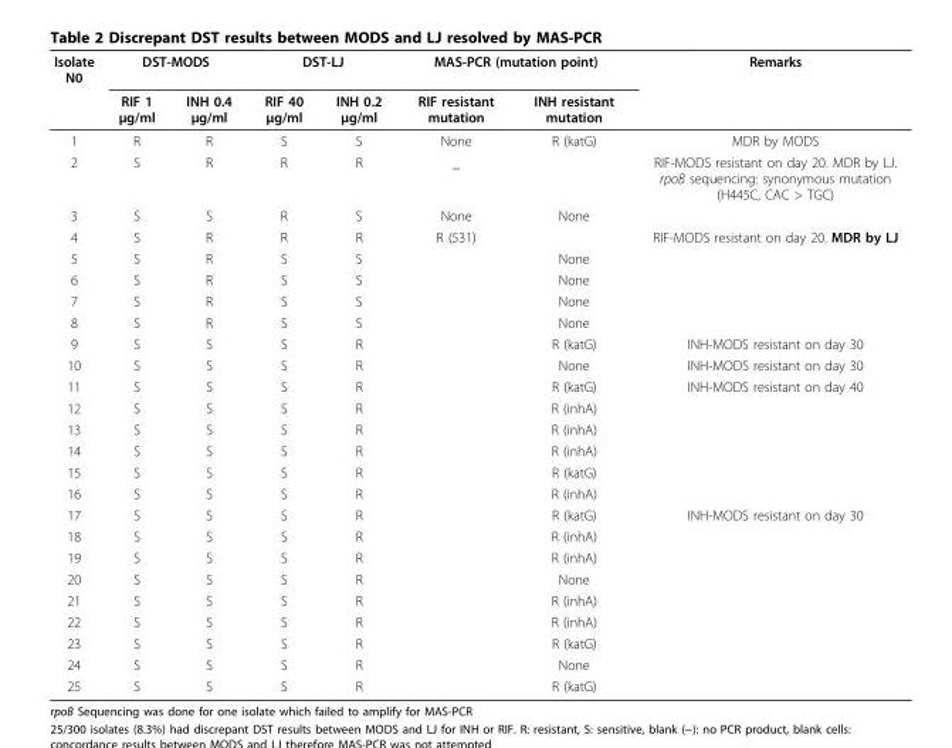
<table><thead><tr><td rowspan="2">Isolate N0</td><td colspan="2">DST-MODS</td><td colspan="2">DST-LJ</td><td colspan="2">MAS-PCR (mutation point)</td><td rowspan="2">Remarks</td></tr><tr><td>RIF 1 μg/ml</td><td>INH 0.4 μg/ml</td><td>RIF 40 μg/ml</td><td>INH 0.2 μg/ml</td><td>RIF resistant mutation</td><td>INH resistant mutation</td></tr></thead><tbody><tr><td>1</td><td>R</td><td>R</td><td>S</td><td>S</td><td>None</td><td>R (katG)</td><td>MDR by MODS</td></tr><tr><td>2</td><td>S</td><td>R</td><td>R</td><td>R</td><td>_</td><td></td><td>RIF-MODS resistant on day 20. MDR by LJ. rpoB sequencing: synonymous mutation (H445C, CAC &gt; TGC)</td></tr><tr><td>3</td><td>S</td><td>S</td><td>R</td><td>S</td><td>None</td><td>None</td><td></td></tr><tr><td>4</td><td>S</td><td>R</td><td>R</td><td>R</td><td>R (531)</td><td></td><td>RIF-MODS resistant on day 20. MDR by LJ</td></tr><tr><td>5</td><td>S</td><td>R</td><td>S</td><td>S</td><td></td><td>None</td><td></td></tr><tr><td>6</td><td>S</td><td>R</td><td>S</td><td>S</td><td></td><td>None</td><td></td></tr><tr><td>7</td><td>S</td><td>R</td><td>S</td><td>S</td><td></td><td>None</td><td></td></tr><tr><td>8</td><td>S</td><td>R</td><td>S</td><td>S</td><td></td><td>None</td><td></td></tr><tr><td>9</td><td>S</td><td>S</td><td>S</td><td>R</td><td></td><td>R (katG)</td><td>INH-MODS resistant on day 30</td></tr><tr><td>10</td><td>S</td><td>S</td><td>S</td><td>R</td><td></td><td>None</td><td>INH-MODS resistant on day 30</td></tr><tr><td>11</td><td>S</td><td>S</td><td>S</td><td>R</td><td></td><td>R (katG)</td><td>INH-MODS resistant on day 40</td></tr><tr><td>12</td><td>S</td><td>S</td><td>S</td><td>R</td><td></td><td>R (inhA)</td><td></td></tr><tr><td>13</td><td>S</td><td>S</td><td>S</td><td>R</td><td></td><td>R (inhA)</td><td></td></tr><tr><td>14</td><td>S</td><td>S</td><td>S</td><td>R</td><td></td><td>R (inhA)</td><td></td></tr><tr><td>15</td><td>S</td><td>S</td><td>S</td><td>R</td><td></td><td>R (katG)</td><td></td></tr><tr><td>16</td><td>S</td><td>S</td><td>S</td><td>R</td><td></td><td>R (inhA)</td><td></td></tr><tr><td>17</td><td>S</td><td>S</td><td>S</td><td>R</td><td></td><td>R (katG)</td><td>INH-MODS resistant on day 30</td></tr><tr><td>18</td><td>S</td><td>S</td><td>S</td><td>R</td><td></td><td>R (inhA)</td><td></td></tr><tr><td>19</td><td>S</td><td>S</td><td>S</td><td>R</td><td></td><td>R (inhA)</td><td></td></tr><tr><td>20</td><td>S</td><td>S</td><td>S</td><td>R</td><td></td><td>None</td><td></td></tr><tr><td>21</td><td>S</td><td>S</td><td>S</td><td>R</td><td></td><td>R (inhA)</td><td></td></tr><tr><td>22</td><td>S</td><td>S</td><td>S</td><td>R</td><td></td><td>R (inhA)</td><td></td></tr><tr><td>23</td><td>S</td><td>S</td><td>S</td><td>R</td><td></td><td>R (katG)</td><td></td></tr><tr><td>24</td><td>S</td><td>S</td><td>S</td><td>R</td><td></td><td>None</td><td></td></tr><tr><td>25</td><td>S</td><td>S</td><td>S</td><td>R</td><td></td><td>R (katG)</td><td></td></tr></tbody></table>